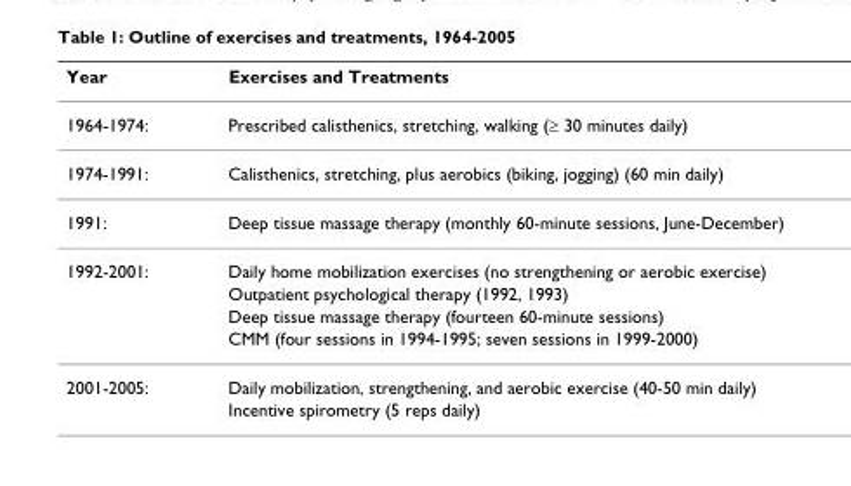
<table><thead><tr><td>Year</td><td>Exercises and Treatments</td></tr></thead><tbody><tr><td>1964-1974:</td><td>Prescribed calisthenics, stretching, walking (≥ 30 minutes daily)</td></tr><tr><td>1974-1991:</td><td>Calisthenics, stretching, plus aerobics (biking, jogging) (60 min daily)</td></tr><tr><td>1991:</td><td>Deep tissue massage therapy (monthly 60-minute sessions, June-December)</td></tr><tr><td rowspan="4">1992-2001:</td><td>Daily home mobilization exercises (no strengthening or aerobic exercise)</td></tr><tr><td>Outpatient psychological therapy (1992, 1993)</td></tr><tr><td>Deep tissue massage therapy (fourteen 60-minute sessions)</td></tr><tr><td>CMM (four sessions in 1994-1995; seven sessions in 1999-2000)</td></tr><tr><td rowspan="2">2001-2005:</td><td>Daily mobilization, strengthening, and aerobic exercise (40-50 min daily)</td></tr><tr><td>Incentive spirometry (5 reps daily)</td></tr></tbody></table>